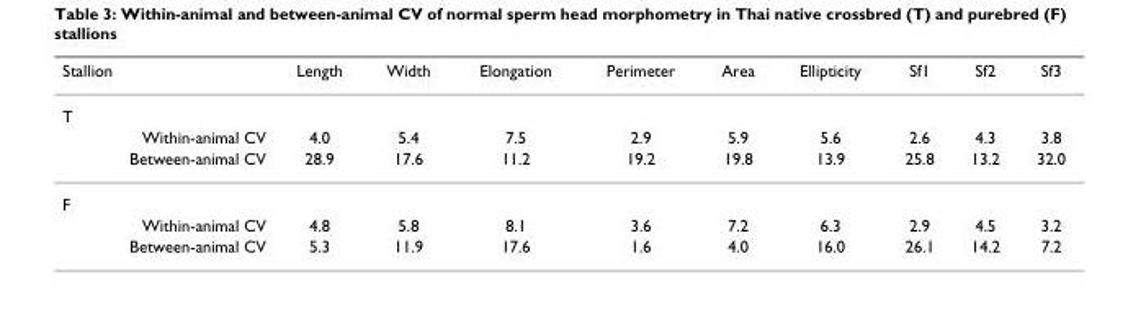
<table><thead><tr><td>Stallion</td><td>Length</td><td>Width</td><td>Elongation</td><td>Perimeter</td><td>Area</td><td>Ellipticity</td><td>Sf1</td><td>Sf2</td><td>Sf3</td></tr></thead><tbody><tr><td colspan="10">T</td></tr><tr><td>Within-animal CV</td><td>4.0</td><td>5.4</td><td>7.5</td><td>2.9</td><td>5.9</td><td>5.6</td><td>2.6</td><td>4.3</td><td>3.8</td></tr><tr><td>Between-animal CV</td><td>28.9</td><td>17.6</td><td>11.2</td><td>19.2</td><td>19.8</td><td>13.9</td><td>25.8</td><td>13.2</td><td>32.0</td></tr><tr><td colspan="10">F</td></tr><tr><td>Within-animal CV</td><td>4.8</td><td>5.8</td><td>8.1</td><td>3.6</td><td>7.2</td><td>6.3</td><td>2.9</td><td>4.5</td><td>3.2</td></tr><tr><td>Between-animal CV</td><td>5.3</td><td>11.9</td><td>17.6</td><td>1.6</td><td>4.0</td><td>16.0</td><td>26.1</td><td>14.2</td><td>7.2</td></tr></tbody></table>